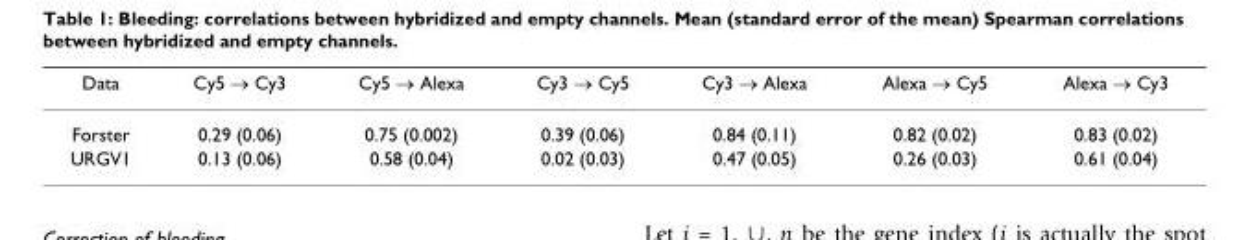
<table><thead><tr><td>Data</td><td>Cy5 → Cy3</td><td>Cy5 → Alexa</td><td>Cy3 → Cy5</td><td>Cy3 → Alexa</td><td>Alexa → Cy5</td><td>Alexa → Cy3</td></tr></thead><tbody><tr><td>Forster</td><td>0.29 (0.06)</td><td>0.75 (0.002)</td><td>0.39 (0.06)</td><td>0.84 (0.11)</td><td>0.82 (0.02)</td><td>0.83 (0.02)</td></tr><tr><td>URGV1</td><td>0.13 (0.06)</td><td>0.58 (0.04)</td><td>0.02 (0.03)</td><td>0.47 (0.05)</td><td>0.26 (0.03)</td><td>0.61 (0.04)</td></tr></tbody></table>